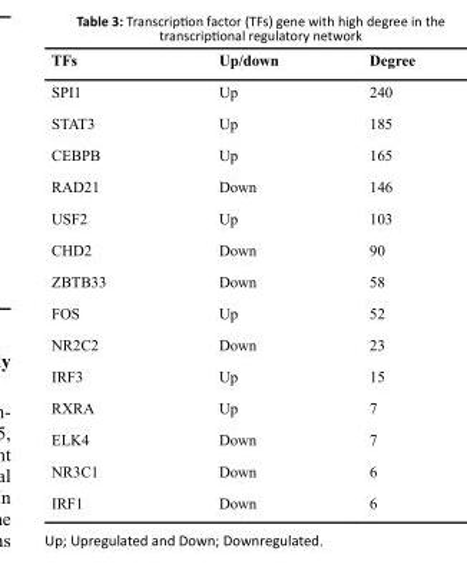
<table><thead><tr><td>TFs</td><td>Up/down</td><td>Degree</td></tr></thead><tbody><tr><td>SPI1</td><td>Up</td><td>240</td></tr><tr><td>STAT3</td><td>Up</td><td>185</td></tr><tr><td>CEBPB</td><td>Up</td><td>165</td></tr><tr><td>RAD21</td><td>Down</td><td>146</td></tr><tr><td>USF2</td><td>Up</td><td>103</td></tr><tr><td>CHD2</td><td>Down</td><td>90</td></tr><tr><td>ZBTB33</td><td>Down</td><td>58</td></tr><tr><td>FOS</td><td>Up</td><td>52</td></tr><tr><td>NR2C2</td><td>Down</td><td>23</td></tr><tr><td>IRF3</td><td>Up</td><td>15</td></tr><tr><td>RXRA</td><td>Up</td><td>7</td></tr><tr><td>ELK4</td><td>Down</td><td>7</td></tr><tr><td>NR3C1</td><td>Down</td><td>6</td></tr><tr><td>IRF1</td><td>Down</td><td>6</td></tr></tbody></table>